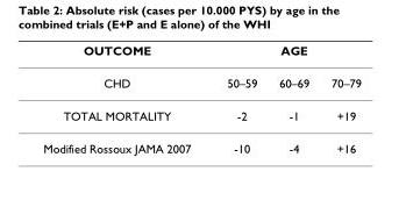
<table><thead><tr><td rowspan="2">OUTCOME CHD</td><td colspan="3">AGE</td></tr><tr><td>50–59</td><td>60–69</td><td>70–79</td></tr></thead><tbody><tr><td>TOTAL MORTALITY</td><td>-2</td><td>-1</td><td>+19</td></tr><tr><td>Modified Rossoux JAMA 2007</td><td>-10</td><td>-4</td><td>+16</td></tr></tbody></table>